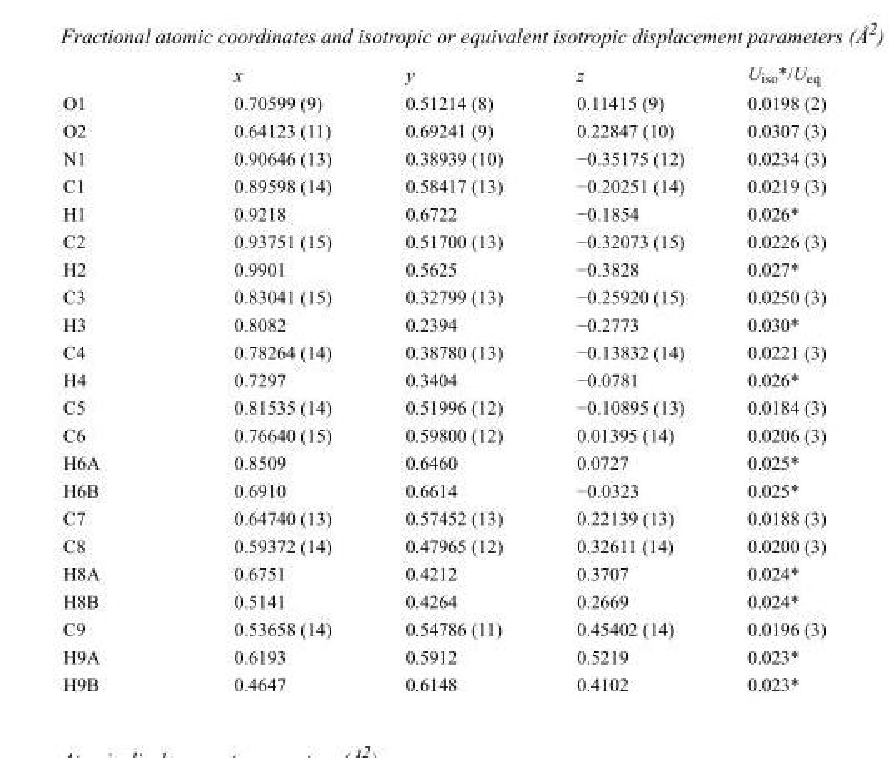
<table><thead><tr><td></td><td>x</td><td>y</td><td>z</td><td>U<sub>iso</sub>*/U<sub>eq</sub></td></tr></thead><tbody><tr><td>O1</td><td>0.70599 (9)</td><td>0.51214 (8)</td><td>0.11415 (9)</td><td>0.0198 (2)</td></tr><tr><td>O2</td><td>0.64123 (11)</td><td>0.69241 (9)</td><td>0.22847 (10)</td><td>0.0307 (3)</td></tr><tr><td>N1</td><td>0.90646 (13)</td><td>0.38939 (10)</td><td>−0.35175 (12)</td><td>0.0234 (3)</td></tr><tr><td>C1</td><td>0.89598 (14)</td><td>0.58417 (13)</td><td>−0.20251 (14)</td><td>0.0219 (3)</td></tr><tr><td>H1</td><td>0.9218</td><td>0.6722</td><td>−0.1854</td><td>0.026*</td></tr><tr><td>C2</td><td>0.93751 (15)</td><td>0.51700 (13)</td><td>−0.32073 (15)</td><td>0.0226 (3)</td></tr><tr><td>H2</td><td>0.9901</td><td>0.5625</td><td>−0.3828</td><td>0.027*</td></tr><tr><td>C3</td><td>0.83041 (15)</td><td>0.32799 (13)</td><td>−0.25920 (15)</td><td>0.0250 (3)</td></tr><tr><td>H3</td><td>0.8082</td><td>0.2394</td><td>−0.2773</td><td>0.030*</td></tr><tr><td>C4</td><td>0.78264 (14)</td><td>0.38780 (13)</td><td>−0.13832 (14)</td><td>0.0221 (3)</td></tr><tr><td>H4</td><td>0.7297</td><td>0.3404</td><td>−0.0781</td><td>0.026*</td></tr><tr><td>C5</td><td>0.81535 (14)</td><td>0.51996 (12)</td><td>−0.10895 (13)</td><td>0.0184 (3)</td></tr><tr><td>C6</td><td>0.76640 (15)</td><td>0.59800 (12)</td><td>0.01395 (14)</td><td>0.0206 (3)</td></tr><tr><td>H6A</td><td>0.8509</td><td>0.6460</td><td>0.0727</td><td>0.025*</td></tr><tr><td>H6B</td><td>0.6910</td><td>0.6614</td><td>−0.0323</td><td>0.025*</td></tr><tr><td>C7</td><td>0.64740 (13)</td><td>0.57452 (13)</td><td>0.22139 (13)</td><td>0.0188 (3)</td></tr><tr><td>C8</td><td>0.59372 (14)</td><td>0.47965 (12)</td><td>0.32611 (14)</td><td>0.0200 (3)</td></tr><tr><td>H8A</td><td>0.6751</td><td>0.4212</td><td>0.3707</td><td>0.024*</td></tr><tr><td>H8B</td><td>0.5141</td><td>0.4264</td><td>0.2669</td><td>0.024*</td></tr><tr><td>C9</td><td>0.53658 (14)</td><td>0.54786 (11)</td><td>0.45402 (14)</td><td>0.0196 (3)</td></tr><tr><td>H9A</td><td>0.6193</td><td>0.5912</td><td>0.5219</td><td>0.023*</td></tr><tr><td>H9B</td><td>0.4647</td><td>0.6148</td><td>0.4102</td><td>0.023*</td></tr></tbody></table>